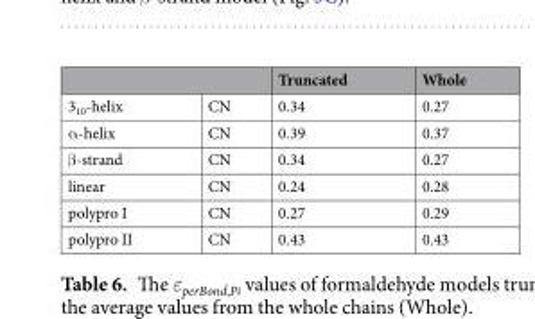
<table><thead><tr><td></td><td></td><td>Truncated</td><td>Whole</td></tr></thead><tbody><tr><td>3<sub>10</sub>-helix</td><td>CN</td><td>0.34</td><td>0.27</td></tr><tr><td>α-helix</td><td>CN</td><td>0.39</td><td>0.37</td></tr><tr><td>β-strand</td><td>CN</td><td>0.34</td><td>0.27</td></tr><tr><td>linear</td><td>CN</td><td>0.24</td><td>0.28</td></tr><tr><td>polypro I</td><td>CN</td><td>0.27</td><td>0.29</td></tr><tr><td>polypro II</td><td>CN</td><td>0.43</td><td>0.43</td></tr></tbody></table>